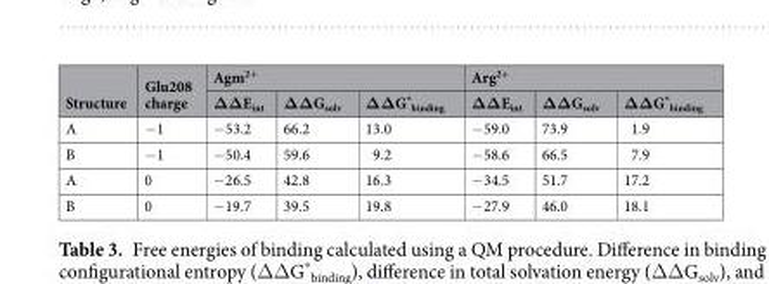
<table><thead><tr><td rowspan="2">Structure</td><td rowspan="2">Glu208 charge</td><td colspan="3">Agm<sup>2+</sup></td><td colspan="3">Arg<sup>2+</sup></td></tr><tr><td>ΔΔE<sub>int</sub></td><td>ΔΔG<sub>solv</sub></td><td>ΔΔG* <sub>binding</sub></td><td>ΔΔE<sub>int</sub></td><td>ΔΔG<sub>solv</sub></td><td>ΔΔG* <sub>binding</sub></td></tr></thead><tbody><tr><td>A</td><td>−1</td><td>−53.2</td><td>66.2</td><td>13.0</td><td>−59.0</td><td>73.9</td><td>1.9</td></tr><tr><td>B</td><td>−1</td><td>−50.4</td><td>59.6</td><td>9.2</td><td>−58.6</td><td>66.5</td><td>7.9</td></tr><tr><td>A</td><td>0</td><td>−26.5</td><td>42.8</td><td>16.3</td><td>−34.5</td><td>51.7</td><td>17.2</td></tr><tr><td>B</td><td>0</td><td>−19.7</td><td>39.5</td><td>19.8</td><td>−27.9</td><td>46.0</td><td>18.1</td></tr></tbody></table>